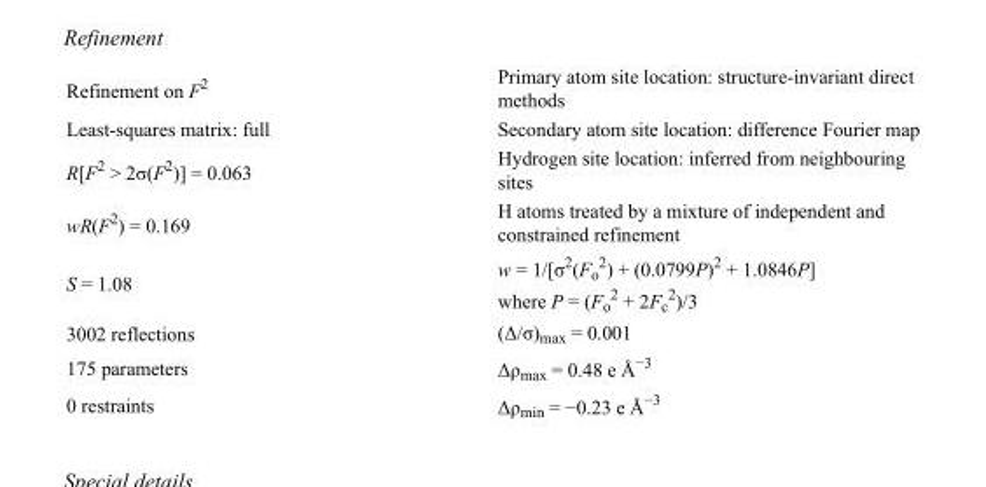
<table><tbody><tr><td>Refinement on F<sup>2</sup></td><td>Primary atom site location: structure-invariant direct methods</td></tr><tr><td>Least-squares matrix: full</td><td>Secondary atom site location: difference Fourier map</td></tr><tr><td>R[F<sup>2</sup> &gt; 2σ(F<sup>2</sup>)] = 0.063</td><td>Hydrogen site location: inferred from neighbouring sites</td></tr><tr><td>wR(F<sup>2</sup>) = 0.169</td><td>H atoms treated by a mixture of independent and constrained refinement</td></tr><tr><td>S = 1.08</td><td>w = 1/[σ<sup>2</sup>(F<sub>o</sub> <sup>2</sup>) + (0.0799P)<sup>2</sup> + 1.0846P] where P = (F<sub>o</sub> <sup>2</sup> + 2F<sub>c</sub> <sup>2</sup>)/3</td></tr><tr><td>3002 reflections</td><td>(Δ/σ)<sub>max</sub> = 0.001</td></tr><tr><td>175 parameters</td><td>Δρ<sub>max</sub> = 0.48 e Å<sup>−3</sup></td></tr><tr><td>0 restraints</td><td>Δρ<sub>min</sub> = −0.23 e Å<sup>−3</sup></td></tr></tbody></table>